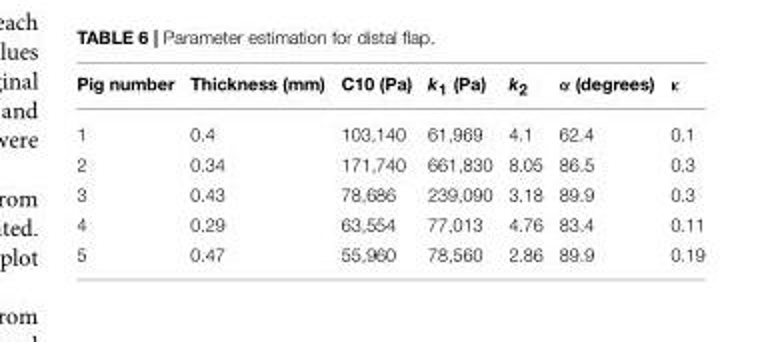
<table><thead><tr><td>Pig number</td><td>Thickness (mm)</td><td>C10 (Pa)</td><td>k<sub>1</sub> (Pa)</td><td>k<sub>2</sub></td><td>α (degrees)</td><td>κ</td></tr></thead><tbody><tr><td>1</td><td>0.4</td><td>103,140</td><td>61,969</td><td>4.1</td><td>62.4</td><td>0.1</td></tr><tr><td>2</td><td>0.34</td><td>171,740</td><td>661,830</td><td>8.05</td><td>86.5</td><td>0.3</td></tr><tr><td>3</td><td>0.43</td><td>78,686</td><td>239,090</td><td>3.18</td><td>89.9</td><td>0.3</td></tr><tr><td>4</td><td>0.29</td><td>63,554</td><td>77,013</td><td>4.76</td><td>83.4</td><td>0.11</td></tr><tr><td>5</td><td>0.47</td><td>55,960</td><td>78,560</td><td>2.86</td><td>89.9</td><td>0.19</td></tr></tbody></table>